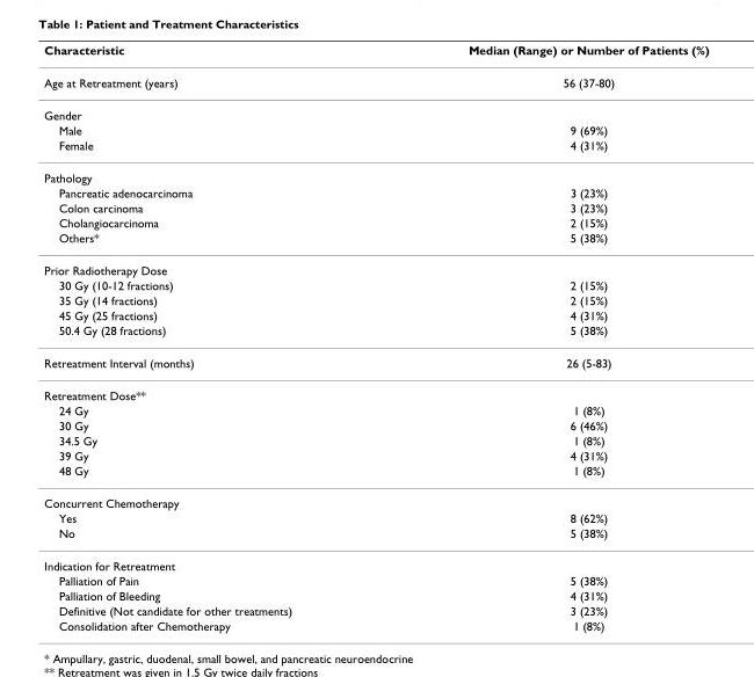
<table><thead><tr><td>Characteristic</td><td>Median (Range) or Number of Patients (%)</td></tr></thead><tbody><tr><td>Age at Retreatment (years)</td><td>56 (37-80)</td></tr><tr><td colspan="2">Gender</td></tr><tr><td>Male</td><td>9 (69%)</td></tr><tr><td>Female</td><td>4 (31%)</td></tr><tr><td colspan="2">Pathology</td></tr><tr><td>Pancreatic adenocarcinoma</td><td>3 (23%)</td></tr><tr><td>Colon carcinoma</td><td>3 (23%)</td></tr><tr><td>Cholangiocarcinoma</td><td>2 (15%)</td></tr><tr><td>Others*</td><td>5 (38%)</td></tr><tr><td colspan="2">Prior Radiotherapy Dose</td></tr><tr><td>30 Gy (10-12 fractions)</td><td>2 (15%)</td></tr><tr><td>35 Gy (14 fractions)</td><td>2 (15%)</td></tr><tr><td>45 Gy (25 fractions)</td><td>4 (31%)</td></tr><tr><td>50.4 Gy (28 fractions)</td><td>5 (38%)</td></tr><tr><td>Retreatment Interval (months)</td><td>26 (5-83)</td></tr><tr><td colspan="2">Retreatment Dose**</td></tr><tr><td>24 Gy</td><td>1 (8%)</td></tr><tr><td>30 Gy</td><td>6 (46%)</td></tr><tr><td>34.5 Gy</td><td>1 (8%)</td></tr><tr><td>39 Gy</td><td>4 (31%)</td></tr><tr><td>48 Gy</td><td>1 (8%)</td></tr><tr><td colspan="2">Concurrent Chemotherapy</td></tr><tr><td>Yes</td><td>8 (62%)</td></tr><tr><td>No</td><td>5 (38%)</td></tr><tr><td colspan="2">Indication for Retreatment</td></tr><tr><td>Palliation of Pain</td><td>5 (38%)</td></tr><tr><td>Palliation of Bleeding</td><td>4 (31%)</td></tr><tr><td>Definitive (Not candidate for other treatments)</td><td>3 (23%)</td></tr><tr><td>Consolidation after Chemotherapy</td><td>1 (8%)</td></tr></tbody></table>